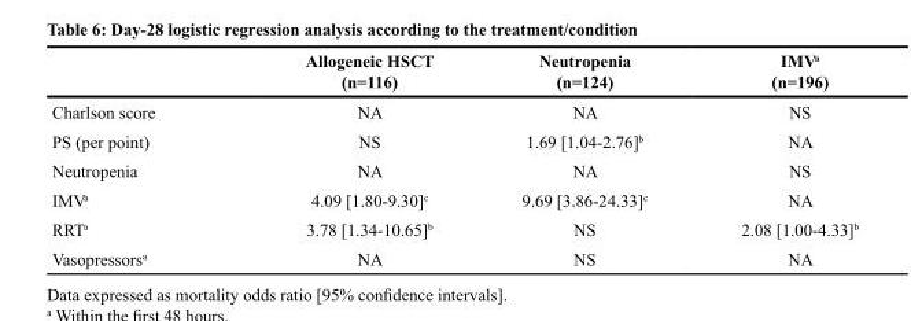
<table><thead><tr><td></td><td>Allogeneic HSCT (n=116)</td><td>Neutropenia (n=124)</td><td>IMVa (n=196)</td></tr></thead><tbody><tr><td>Charlson score</td><td>NA</td><td>NA</td><td>NS</td></tr><tr><td>PS (per point)</td><td>NS</td><td>1.69 [1.04-2.76]<sup>b</sup></td><td>NA</td></tr><tr><td>Neutropenia</td><td>NA</td><td>NA</td><td>NS</td></tr><tr><td>IMV<sup>a</sup></td><td>4.09 [1.80-9.30]<sup>c</sup></td><td>9.69 [3.86-24.33]<sup>c</sup></td><td>NA</td></tr><tr><td>RRT<sup>a</sup></td><td>3.78 [1.34-10.65]<sup>b</sup></td><td>NS</td><td>2.08 [1.00-4.33]<sup>b</sup></td></tr><tr><td>Vasopressors<sup>a</sup></td><td>NA</td><td>NS</td><td>NA</td></tr></tbody></table>